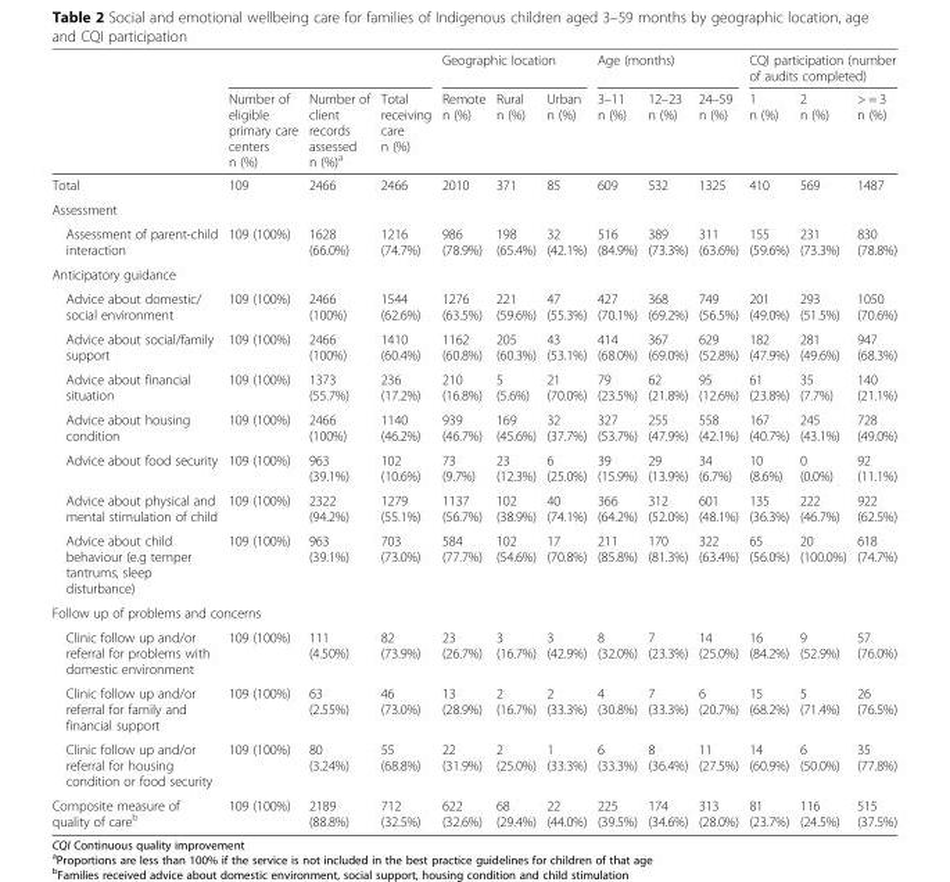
<table><thead><tr><td rowspan="2"></td><td rowspan="2">Number of eligible primary care centers n (%)</td><td rowspan="2">Number of client records assessed n (%)<sup>a</sup></td><td rowspan="2">Total receiving care n (%)</td><td colspan="3">Geographic location</td><td colspan="3">Age (months)</td><td colspan="3">CQI participation (number of audits completed)</td></tr><tr><td>Remote n (%)</td><td>Rural n (%)</td><td>Urban n (%)</td><td>3–11 n (%)</td><td>12–23 n (%)</td><td>24–59 n (%)</td><td>1 n (%)</td><td>2 n (%)</td><td>&gt; = 3 n (%)</td></tr></thead><tbody><tr><td>Total</td><td>109</td><td>2466</td><td>2466</td><td>2010</td><td>371</td><td>85</td><td>609</td><td>532</td><td>1325</td><td>410</td><td>569</td><td>1487</td></tr><tr><td colspan="13">Assessment</td></tr><tr><td>Assessment of parent-child interaction</td><td>109 (100%)</td><td>1628 (66.0%)</td><td>1216 (74.7%)</td><td>986 (78.9%)</td><td>198 (65.4%)</td><td>32 (42.1%)</td><td>516 (84.9%)</td><td>389 (73.3%)</td><td>311 (63.6%)</td><td>155 (59.6%)</td><td>231 (73.3%)</td><td>830 (78.8%)</td></tr><tr><td colspan="13">Anticipatory guidance</td></tr><tr><td>Advice about domestic/ social environment</td><td>109 (100%)</td><td>2466 (100%)</td><td>1544 (62.6%)</td><td>1276 (63.5%)</td><td>221 (59.6%)</td><td>47 (55.3%)</td><td>427 (70.1%)</td><td>368 (69.2%)</td><td>749 (56.5%)</td><td>201 (49.0%)</td><td>293 (51.5%)</td><td>1050 (70.6%)</td></tr><tr><td>Advice about social/family support</td><td>109 (100%)</td><td>2466 (100%)</td><td>1410 (60.4%)</td><td>1162 (60.8%)</td><td>205 (60.3%)</td><td>43 (53.1%)</td><td>414 (68.0%)</td><td>367 (69.0%)</td><td>629 (52.8%)</td><td>182 (47.9%)</td><td>281 (49.6%)</td><td>947 (68.3%)</td></tr><tr><td>Advice about financial situation</td><td>109 (100%)</td><td>1373 (55.7%)</td><td>236 (17.2%)</td><td>210 (16.8%)</td><td>5 (5.6%)</td><td>21 (70.0%)</td><td>79 (23.5%)</td><td>62 (21.8%)</td><td>95 (12.6%)</td><td>61 (23.8%)</td><td>35 (7.7%)</td><td>140 (21.1%)</td></tr><tr><td>Advice about housing condition</td><td>109 (100%)</td><td>2466 (100%)</td><td>1140 (46.2%)</td><td>939 (46.7%)</td><td>169 (45.6%)</td><td>32 (37.7%)</td><td>327 (53.7%)</td><td>255 (47.9%)</td><td>558 (42.1%)</td><td>167 (40.7%)</td><td>245 (43.1%)</td><td>728 (49.0%)</td></tr><tr><td>Advice about food security</td><td>109 (100%)</td><td>963 (39.1%)</td><td>102 (10.6%)</td><td>73 (9.7%)</td><td>23 (12.3%)</td><td>6 (25.0%)</td><td>39 (15.9%)</td><td>29 (13.9%)</td><td>34 (6.7%)</td><td>10 (8.6%)</td><td>0 (0.0%)</td><td>92 (11.1%)</td></tr><tr><td>Advice about physical and mental stimulation of child</td><td>109 (100%)</td><td>2322 (94.2%)</td><td>1279 (55.1%)</td><td>1137 (56.7%)</td><td>102 (38.9%)</td><td>40 (74.1%)</td><td>366 (64.2%)</td><td>312 (52.0%)</td><td>601 (48.1%)</td><td>135 (36.3%)</td><td>222 (46.7%)</td><td>922 (62.5%)</td></tr><tr><td>Advice about child behaviour (e.g temper tantrums, sleep disturbance)</td><td>109 (100%)</td><td>963 (39.1%)</td><td>703 (73.0%)</td><td>584 (77.7%)</td><td>102 (54.6%)</td><td>17 (70.8%)</td><td>211 (85.8%)</td><td>170 (81.3%)</td><td>322 (63.4%)</td><td>65 (56.0%)</td><td>20 (100.0%)</td><td>618 (74.7%)</td></tr><tr><td colspan="13">Follow up of problems and concerns</td></tr><tr><td>Clinic follow up and/or referral for problems with domestic environment</td><td>109 (100%)</td><td>111 (4.50%)</td><td>82 (73.9%)</td><td>23 (26.7%)</td><td>3 (16.7%)</td><td>3 (42.9%)</td><td>8 (32.0%)</td><td>7 (23.3%)</td><td>14 (25.0%)</td><td>16 (84.2%)</td><td>9 (52.9%)</td><td>57 (76.0%)</td></tr><tr><td>Clinic follow up and/or referral for family and financial support</td><td>109 (100%)</td><td>63 (2.55%)</td><td>46 (73.0%)</td><td>13 (28.9%)</td><td>2 (16.7%)</td><td>2 (33.3%)</td><td>4 (30.8%)</td><td>7 (33.3%)</td><td>6 (20.7%)</td><td>15 (68.2%)</td><td>5 (71.4%)</td><td>26 (76.5%)</td></tr><tr><td>Clinic follow up and/or referral for housing condition or food security</td><td>109 (100%)</td><td>80 (3.24%)</td><td>55 (68.8%)</td><td>22 (31.9%)</td><td>2 (25.0%)</td><td>1 (33.3%)</td><td>6 (33.3%)</td><td>8 (36.4%)</td><td>11 (27.5%)</td><td>14 (60.9%)</td><td>6 (50.0%)</td><td>35 (77.8%)</td></tr><tr><td>Composite measure of quality of care<sup>b</sup></td><td>109 (100%)</td><td>2189 (88.8%)</td><td>712 (32.5%)</td><td>622 (32.6%)</td><td>68 (29.4%)</td><td>22 (44.0%)</td><td>225 (39.5%)</td><td>174 (34.6%)</td><td>313 (28.0%)</td><td>81 (23.7%)</td><td>116 (24.5%)</td><td>515 (37.5%)</td></tr></tbody></table>